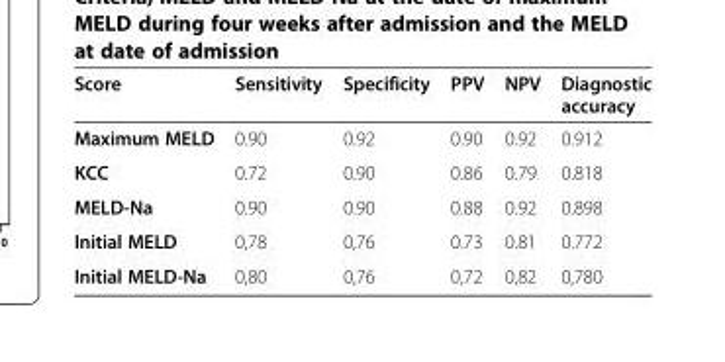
<table><thead><tr><td>Score</td><td>Sensitivity</td><td>Specificity</td><td>PPV</td><td>NPV</td><td>Diagnostic accuracy</td></tr></thead><tbody><tr><td>Maximum MELD</td><td>0.90</td><td>0.92</td><td>0.90</td><td>0.92</td><td>0.912</td></tr><tr><td>KCC</td><td>0.72</td><td>0.90</td><td>0.86</td><td>0.79</td><td>0.818</td></tr><tr><td>MELD-Na</td><td>0.90</td><td>0.90</td><td>0.88</td><td>0.92</td><td>0.898</td></tr><tr><td>Initial MELD</td><td>0,78</td><td>0,76</td><td>0.73</td><td>0.81</td><td>0.772</td></tr><tr><td>Initial MELD-Na</td><td>0,80</td><td>0,76</td><td>0,72</td><td>0,82</td><td>0,780</td></tr></tbody></table>